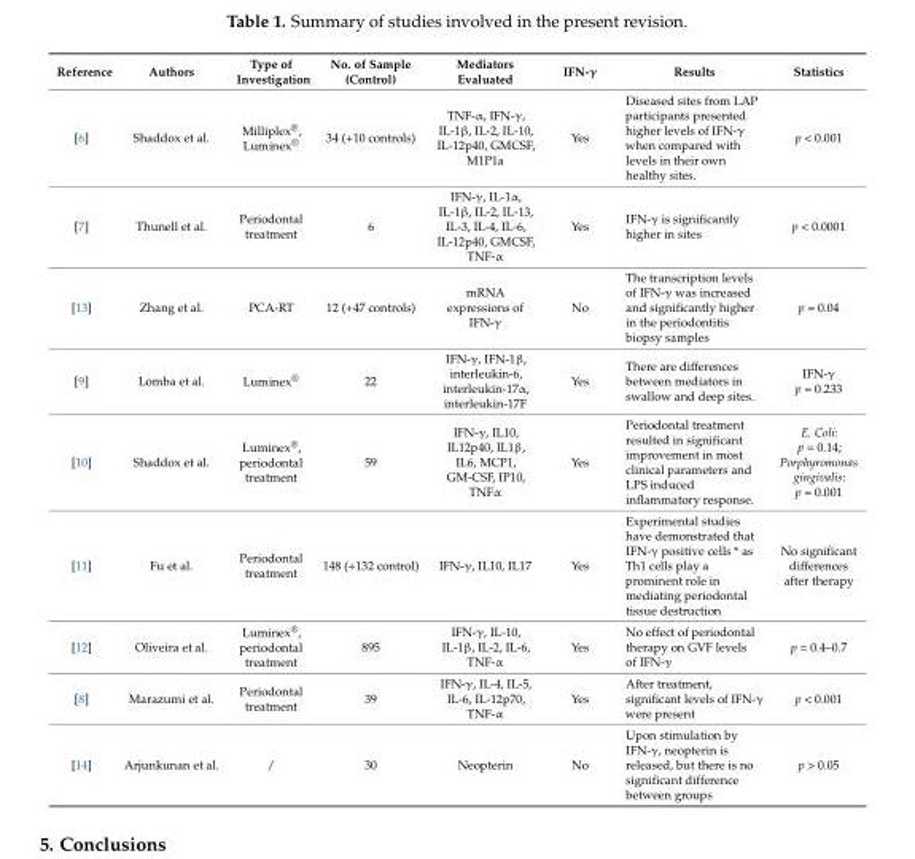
<table><thead><tr><td>Reference</td><td>Authors</td><td>Type of Investigation</td><td>No. of Sample (Control)</td><td>Mediators Evaluated</td><td>IFN-γ</td><td>Results</td><td>Statistics</td></tr></thead><tbody><tr><td>[6]</td><td>Shaddox et al.</td><td>Milliplex<sup>®</sup>, Luminex<sup>®</sup></td><td>34 (+10 controls)</td><td>TNF-α, IFN-γ, IL-1β, IL-2, IL-10, IL-12p40, GMCSF, M1P1a</td><td>Yes</td><td>Diseased sites from LAP participants presented higher levels of IFN-γ when compared with levels in their own healthy sites.</td><td>p &lt; 0.001</td></tr><tr><td>[7]</td><td>Thunell et al.</td><td>Periodontal treatment</td><td>6</td><td>IFN-γ, IL-1α, IL-1β, IL-2, IL-13, IL-3, IL-4, IL-6, IL-12p40, GMCSF, TNF-α</td><td>Yes</td><td>IFN-γ is significantly higher in sites</td><td>p &lt; 0.0001</td></tr><tr><td>[13]</td><td>Zhang et al.</td><td>PCA-RT</td><td>12 (+47 controls)</td><td>mRNA expressions of IFN-γ</td><td>No</td><td>The transcription levels of IFN-γ was increased and significantly higher in the periodontitis biopsy samples</td><td>p = 0.04</td></tr><tr><td>[9]</td><td>Lomba et al.</td><td>Luminex<sup>®</sup></td><td>22</td><td>IFN-γ, IFN-1β, interleukin-6, interleukin-17α, interleukin-17F</td><td>Yes</td><td>There are differences between mediators in swallow and deep sites.</td><td>IFN-γ p = 0.233</td></tr><tr><td>[10]</td><td>Shaddox et al.</td><td>Luminex<sup>®</sup>, periodontal treatment</td><td>59</td><td>IFN-γ, IL10, IL12p40, IL1β, IL6, MCP1, GM-CSF, IP10, TNFα</td><td>Yes</td><td>Periodontal treatment resulted in significant improvement in most clinical parameters and LPS induced inflammatory response.</td><td>E. Coli: p = 0.14; Porphyromonas gingivalis: p = 0.001</td></tr><tr><td>[11]</td><td>Fu et al.</td><td>Periodontal treatment</td><td>148 (+132 control)</td><td>IFN-γ, IL10, IL17</td><td>Yes</td><td>Experimental studies have demonstrated that IFN-γ positive cells * as Th1 cells play a prominent role in mediating periodontal tissue destruction</td><td>No significant differences after therapy</td></tr><tr><td>[12]</td><td>Oliveira et al.</td><td>Luminex<sup>®</sup>, periodontal treatment</td><td>895</td><td>IFN-γ, IL-10, IL-1β, IL-2, IL-6, TNF-α</td><td>Yes</td><td>No effect of periodontal therapy on GVF levels of IFN-γ</td><td>p = 0.4–0.7</td></tr><tr><td>[8]</td><td>Marazumi et al.</td><td>Periodontal treatment</td><td>39</td><td>IFN-γ, IL-4, IL-5, IL-6, IL-12p70, TNF-α</td><td>Yes</td><td>After treatment, significant levels of IFN-γ were present</td><td>p &lt; 0.001</td></tr><tr><td>[14]</td><td>Arjunkunan et al.</td><td>/</td><td>30</td><td>Neopterin</td><td>No</td><td>Upon stimulation by IFN-γ, neopterin is released, but there is no significant difference between groups</td><td>p &gt; 0.05</td></tr></tbody></table>